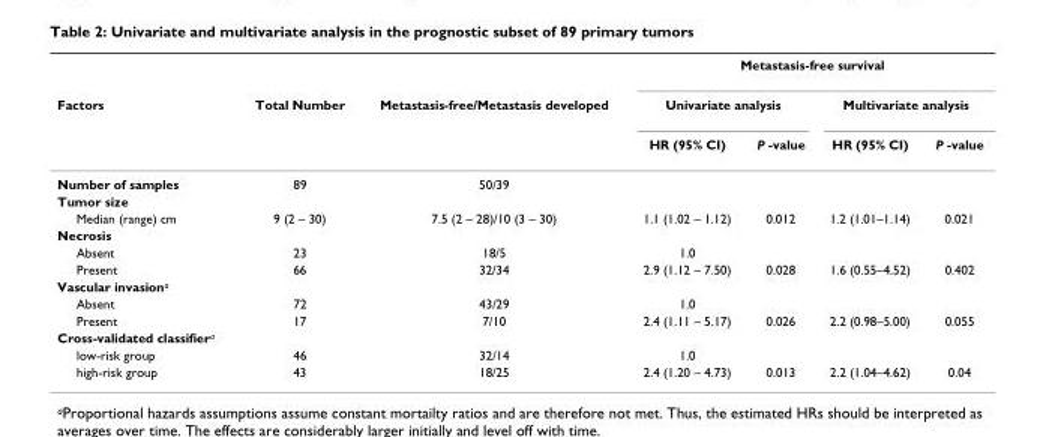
<table><thead><tr><td rowspan="3">Factors</td><td rowspan="3">Total Number</td><td rowspan="3">Metastasis-free/Metastasis developed</td><td colspan="4">Metastasis-free survival</td></tr><tr><td colspan="2">Univariate analysis</td><td colspan="2">Multivariate analysis</td></tr><tr><td>HR (95% CI)</td><td>P -value</td><td>HR (95% CI)</td><td>P -value</td></tr></thead><tbody><tr><td>Number of samples</td><td>89</td><td>50/39</td><td></td><td></td><td></td><td></td></tr><tr><td colspan="7">Tumor size</td></tr><tr><td>Median (range) cm</td><td>9 (2 – 30)</td><td>7.5 (2 – 28)/10 (3 – 30)</td><td>1.1 (1.02 – 1.12)</td><td>0.012</td><td>1.2 (1.01–1.14)</td><td>0.021</td></tr><tr><td colspan="7">Necrosis</td></tr><tr><td>Absent</td><td>23</td><td>18/5</td><td>1.0</td><td></td><td></td><td></td></tr><tr><td>Present</td><td>66</td><td>32/34</td><td>2.9 (1.12 – 7.50)</td><td>0.028</td><td>1.6 (0.55–4.52)</td><td>0.402</td></tr><tr><td colspan="7">Vascular invasion<sup>a</sup></td></tr><tr><td>Absent</td><td>72</td><td>43/29</td><td>1.0</td><td></td><td></td><td></td></tr><tr><td>Present</td><td>17</td><td>7/10</td><td>2.4 (1.11 – 5.17)</td><td>0.026</td><td>2.2 (0.98–5.00)</td><td>0.055</td></tr><tr><td colspan="7">Cross-validated classifier<sup>a</sup></td></tr><tr><td>low-risk group</td><td>46</td><td>32/14</td><td>1.0</td><td></td><td></td><td></td></tr><tr><td>high-risk group</td><td>43</td><td>18/25</td><td>2.4 (1.20 – 4.73)</td><td>0.013</td><td>2.2 (1.04–4.62)</td><td>0.04</td></tr></tbody></table>